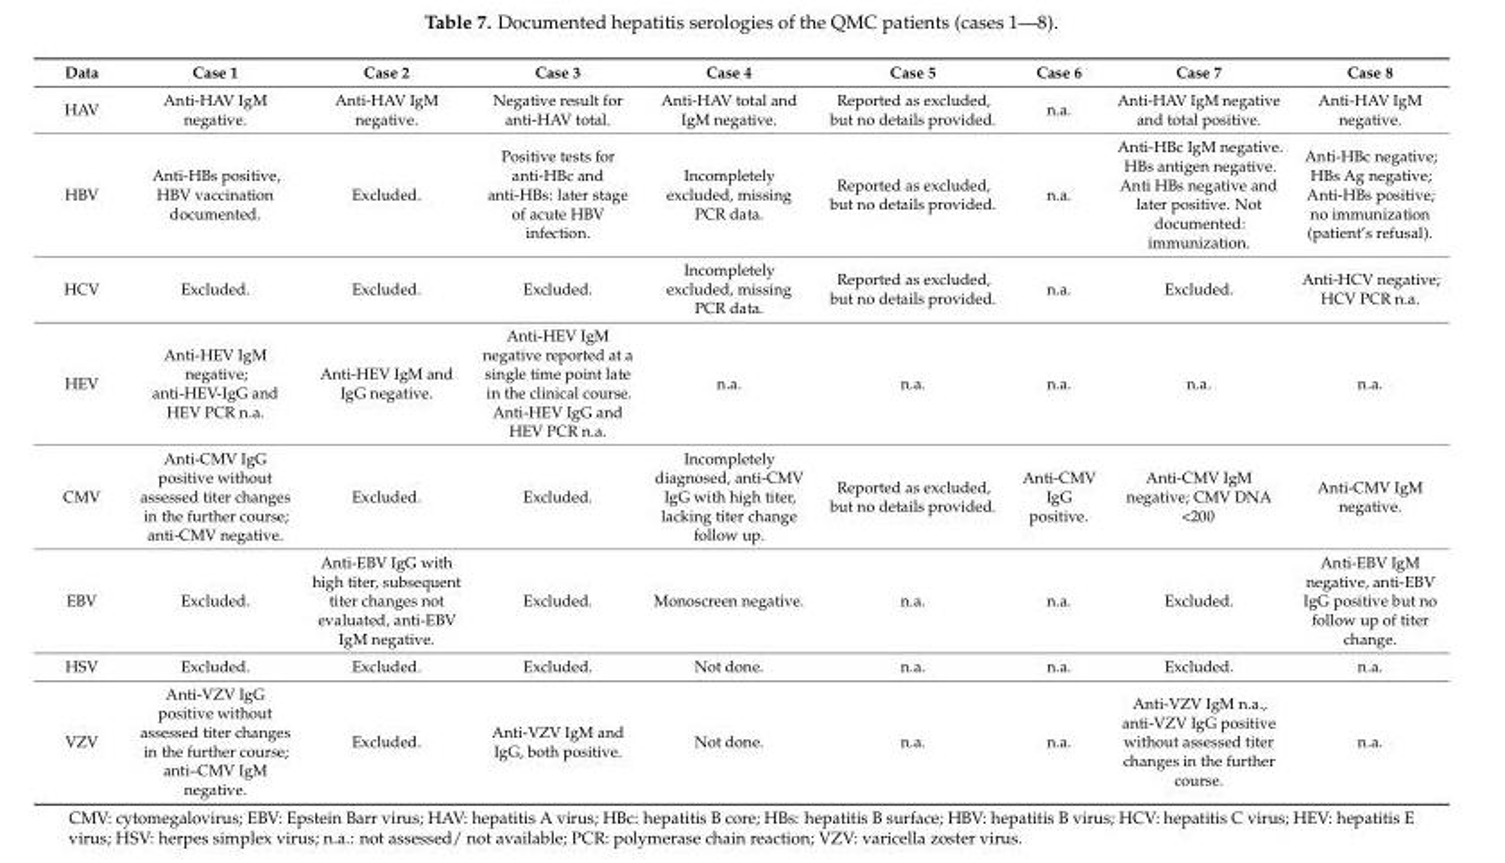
<table><thead><tr><td>Data</td><td>Case 1</td><td>Case 2</td><td>Case 3</td><td>Case 4</td><td>Case 5</td><td>Case 6</td><td>Case 7</td><td>Case 8</td></tr></thead><tbody><tr><td>HAV</td><td>Anti-HAV IgM negative.</td><td>Anti-HAV IgM negative.</td><td>Negative result for anti-HAV total.</td><td>Anti-HAV total and IgM negative.</td><td>Reported as excluded, but no details provided.</td><td>n.a.</td><td>Anti-HAV IgM negative and total positive.</td><td>Anti-HAV IgM negative.</td></tr><tr><td>HBV</td><td>Anti-HBs positive, HBV vaccination documented.</td><td>Excluded.</td><td>Positive tests for anti-HBc and anti-HBs: later stage of acute HBV infection.</td><td>Incompletely excluded, missing PCR data.</td><td>Reported as excluded, but no details provided.</td><td>n.a.</td><td>Anti-HBc IgM negative. HBs antigen negative. Anti HBs negative and later positive. Not documented: immunization.</td><td>Anti-HBc negative; HBs Ag negative; Anti-HBs positive; no immunization (patient’s refusal).</td></tr><tr><td>HCV</td><td>Excluded.</td><td>Excluded.</td><td>Excluded.</td><td>Incompletely excluded, missing PCR data.</td><td>Reported as excluded, but no details provided.</td><td>n.a.</td><td>Excluded.</td><td>Anti-HCV negative; HCV PCR n.a.</td></tr><tr><td>HEV</td><td>Anti-HEV IgM negative; anti-HEV-IgG and HEV PCR n.a.</td><td>Anti-HEV IgM and IgG negative.</td><td>Anti-HEV IgM negative reported at a single time point late in the clinical course. Anti-HEV IgG and HEV PCR n.a.</td><td>n.a.</td><td>n.a.</td><td>n.a.</td><td>n.a.</td><td>n.a.</td></tr><tr><td>CMV</td><td>Anti-CMV IgG positive without assessed titer changes in the further course; anti-CMV negative.</td><td>Excluded.</td><td>Excluded.</td><td>Incompletely diagnosed, anti-CMV IgG with high titer, lacking titer change follow up.</td><td>Reported as excluded, but no details provided.</td><td>Anti-CMV IgG positive.</td><td>Anti-CMV IgM negative; CMV DNA &lt;200</td><td>Anti-CMV IgM negative.</td></tr><tr><td>EBV</td><td>Excluded.</td><td>Anti-EBV IgG with high titer, subsequent titer changes not evaluated, anti-EBV IgM negative.</td><td>Excluded.</td><td>Monoscreen negative.</td><td>n.a.</td><td>n.a.</td><td>Excluded.</td><td>Anti-EBV IgM negative, anti-EBV IgG positive but no follow up of titer change.</td></tr><tr><td>HSV</td><td>Excluded.</td><td>Excluded.</td><td>Excluded.</td><td>Not done.</td><td>n.a.</td><td>n.a.</td><td>Excluded.</td><td>n.a.</td></tr><tr><td>VZV</td><td>Anti-VZV IgG positive without assessed titer changes in the further course; anti–CMV IgM negative.</td><td>Excluded.</td><td>Anti-VZV IgM and IgG, both positive.</td><td>Not done.</td><td>n.a.</td><td>n.a.</td><td>Anti-VZV IgM n.a., anti-VZV IgG positive without assessed titer changes in the further course.</td><td>n.a.</td></tr></tbody></table>